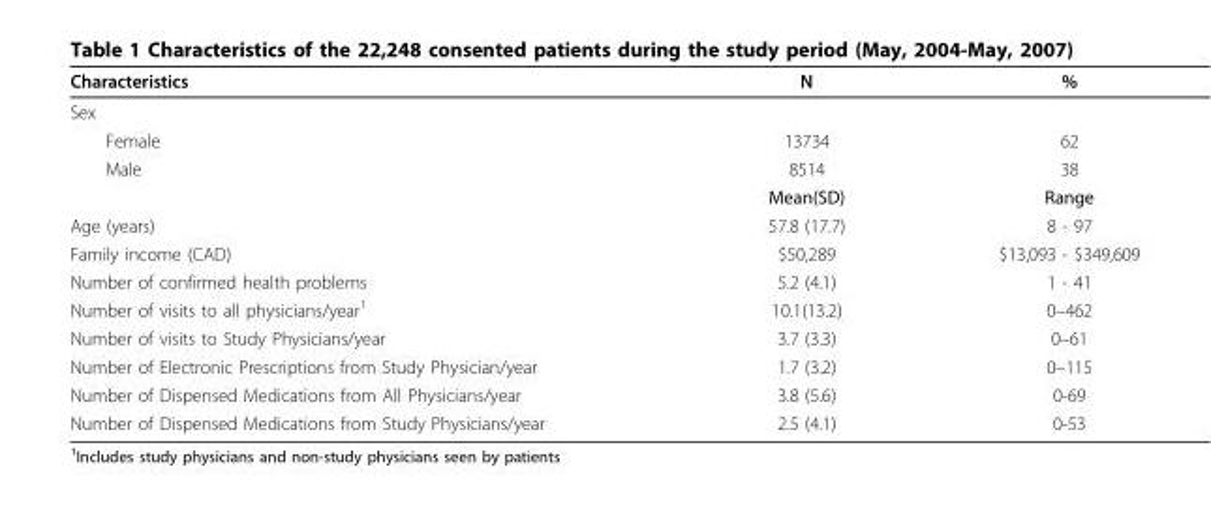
<table><thead><tr><td>Characteristics</td><td>N</td><td>%</td></tr></thead><tbody><tr><td colspan="3">Sex</td></tr><tr><td>Female</td><td>13734</td><td>62</td></tr><tr><td rowspan="2">Male</td><td>8514</td><td>38</td></tr><tr><td>Mean(SD)</td><td>Range</td></tr><tr><td>Age (years)</td><td>57.8 (17.7)</td><td>8 - 97</td></tr><tr><td>Family income (CAD)</td><td>$50,289</td><td>$13,093 - $349,609</td></tr><tr><td>Number of confirmed health problems</td><td>5.2 (4.1)</td><td>1 - 41</td></tr><tr><td>Number of visits to all physicians/year<sup>1</sup></td><td>10.1(13.2)</td><td>0–462</td></tr><tr><td>Number of visits to Study Physicians/year</td><td>3.7 (3.3)</td><td>0–61</td></tr><tr><td>Number of Electronic Prescriptions from Study Physician/year</td><td>1.7 (3.2)</td><td>0–115</td></tr><tr><td>Number of Dispensed Medications from All Physicians/year</td><td>3.8 (5.6)</td><td>0-69</td></tr><tr><td>Number of Dispensed Medications from Study Physicians/year</td><td>2.5 (4.1)</td><td>0-53</td></tr></tbody></table>